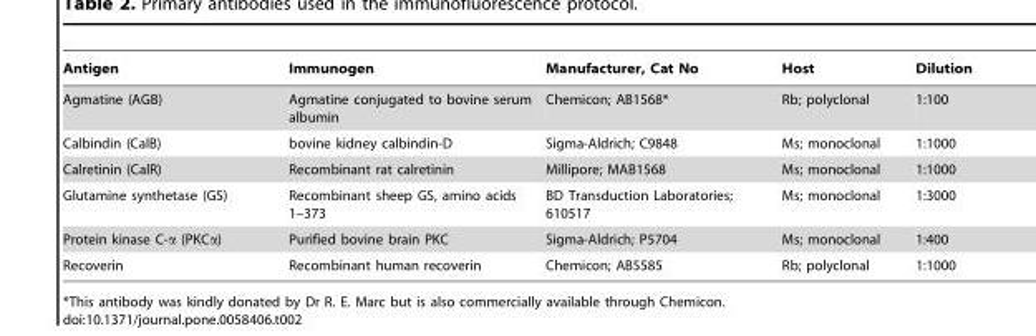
<table><thead><tr><td>Antigen</td><td>Immunogen</td><td>Manufacturer, Cat No</td><td>Host</td><td>Dilution</td></tr></thead><tbody><tr><td>Agmatine (AGB)</td><td>Agmatine conjugated to bovine serum albumin</td><td>Chemicon; AB1568*</td><td>Rb; polyclonal</td><td>1:100</td></tr><tr><td>Calbindin (CalB)</td><td>bovine kidney calbindin-D</td><td>Sigma-Aldrich; C9848</td><td>Ms; monoclonal</td><td>1:1000</td></tr><tr><td>Calretinin (CalR)</td><td>Recombinant rat calretinin</td><td>Millipore; MAB1568</td><td>Ms; monoclonal</td><td>1:1000</td></tr><tr><td>Glutamine synthetase (GS)</td><td>Recombinant sheep GS, amino acids 1–373</td><td>BD Transduction Laboratories; 610517</td><td>Ms; monoclonal</td><td>1:3000</td></tr><tr><td>Protein kinase C-α (PKCα)</td><td>Purified bovine brain PKC</td><td>Sigma-Aldrich; P5704</td><td>Ms; monoclonal</td><td>1:400</td></tr><tr><td>Recoverin</td><td>Recombinant human recoverin</td><td>Chemicon; AB5585</td><td>Rb; polyclonal</td><td>1:1000</td></tr></tbody></table>